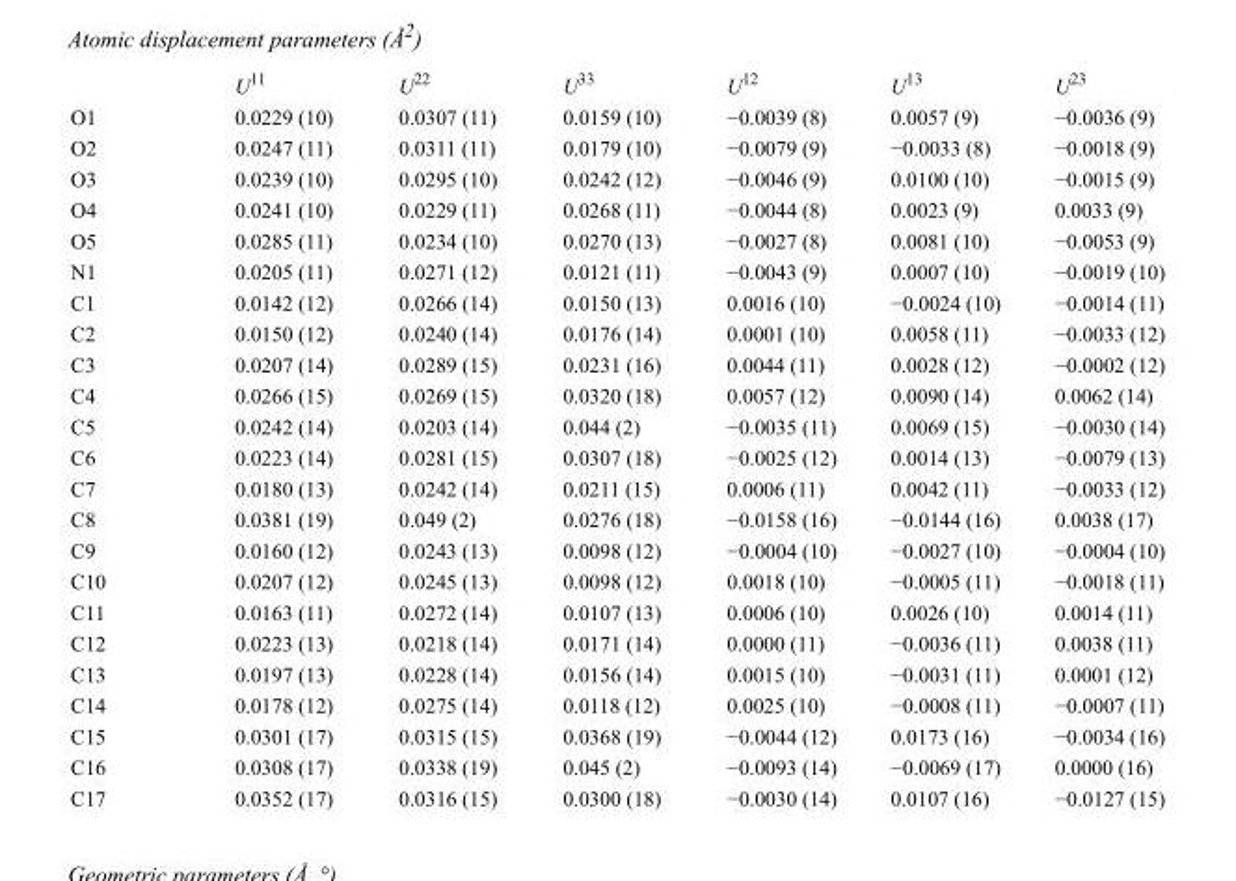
<table><thead><tr><td></td><td>U<sup>11</sup></td><td>U<sup>22</sup></td><td>U<sup>33</sup></td><td>U<sup>12</sup></td><td>U<sup>13</sup></td><td>U<sup>23</sup></td></tr></thead><tbody><tr><td>O1</td><td>0.0229 (10)</td><td>0.0307 (11)</td><td>0.0159 (10)</td><td>−0.0039 (8)</td><td>0.0057 (9)</td><td>−0.0036 (9)</td></tr><tr><td>O2</td><td>0.0247 (11)</td><td>0.0311 (11)</td><td>0.0179 (10)</td><td>−0.0079 (9)</td><td>−0.0033 (8)</td><td>−0.0018 (9)</td></tr><tr><td>O3</td><td>0.0239 (10)</td><td>0.0295 (10)</td><td>0.0242 (12)</td><td>−0.0046 (9)</td><td>0.0100 (10)</td><td>−0.0015 (9)</td></tr><tr><td>O4</td><td>0.0241 (10)</td><td>0.0229 (11)</td><td>0.0268 (11)</td><td>−0.0044 (8)</td><td>0.0023 (9)</td><td>0.0033 (9)</td></tr><tr><td>O5</td><td>0.0285 (11)</td><td>0.0234 (10)</td><td>0.0270 (13)</td><td>−0.0027 (8)</td><td>0.0081 (10)</td><td>−0.0053 (9)</td></tr><tr><td>N1</td><td>0.0205 (11)</td><td>0.0271 (12)</td><td>0.0121 (11)</td><td>−0.0043 (9)</td><td>0.0007 (10)</td><td>−0.0019 (10)</td></tr><tr><td>C1</td><td>0.0142 (12)</td><td>0.0266 (14)</td><td>0.0150 (13)</td><td>0.0016 (10)</td><td>−0.0024 (10)</td><td>−0.0014 (11)</td></tr><tr><td>C2</td><td>0.0150 (12)</td><td>0.0240 (14)</td><td>0.0176 (14)</td><td>0.0001 (10)</td><td>0.0058 (11)</td><td>−0.0033 (12)</td></tr><tr><td>C3</td><td>0.0207 (14)</td><td>0.0289 (15)</td><td>0.0231 (16)</td><td>0.0044 (11)</td><td>0.0028 (12)</td><td>−0.0002 (12)</td></tr><tr><td>C4</td><td>0.0266 (15)</td><td>0.0269 (15)</td><td>0.0320 (18)</td><td>0.0057 (12)</td><td>0.0090 (14)</td><td>0.0062 (14)</td></tr><tr><td>C5</td><td>0.0242 (14)</td><td>0.0203 (14)</td><td>0.044 (2)</td><td>−0.0035 (11)</td><td>0.0069 (15)</td><td>−0.0030 (14)</td></tr><tr><td>C6</td><td>0.0223 (14)</td><td>0.0281 (15)</td><td>0.0307 (18)</td><td>−0.0025 (12)</td><td>0.0014 (13)</td><td>−0.0079 (13)</td></tr><tr><td>C7</td><td>0.0180 (13)</td><td>0.0242 (14)</td><td>0.0211 (15)</td><td>0.0006 (11)</td><td>0.0042 (11)</td><td>−0.0033 (12)</td></tr><tr><td>C8</td><td>0.0381 (19)</td><td>0.049 (2)</td><td>0.0276 (18)</td><td>−0.0158 (16)</td><td>−0.0144 (16)</td><td>0.0038 (17)</td></tr><tr><td>C9</td><td>0.0160 (12)</td><td>0.0243 (13)</td><td>0.0098 (12)</td><td>−0.0004 (10)</td><td>−0.0027 (10)</td><td>−0.0004 (10)</td></tr><tr><td>C10</td><td>0.0207 (12)</td><td>0.0245 (13)</td><td>0.0098 (12)</td><td>0.0018 (10)</td><td>−0.0005 (11)</td><td>−0.0018 (11)</td></tr><tr><td>C11</td><td>0.0163 (11)</td><td>0.0272 (14)</td><td>0.0107 (13)</td><td>0.0006 (10)</td><td>0.0026 (10)</td><td>0.0014 (11)</td></tr><tr><td>C12</td><td>0.0223 (13)</td><td>0.0218 (14)</td><td>0.0171 (14)</td><td>0.0000 (11)</td><td>−0.0036 (11)</td><td>0.0038 (11)</td></tr><tr><td>C13</td><td>0.0197 (13)</td><td>0.0228 (14)</td><td>0.0156 (14)</td><td>0.0015 (10)</td><td>−0.0031 (11)</td><td>0.0001 (12)</td></tr><tr><td>C14</td><td>0.0178 (12)</td><td>0.0275 (14)</td><td>0.0118 (12)</td><td>0.0025 (10)</td><td>−0.0008 (11)</td><td>−0.0007 (11)</td></tr><tr><td>C15</td><td>0.0301 (17)</td><td>0.0315 (15)</td><td>0.0368 (19)</td><td>−0.0044 (12)</td><td>0.0173 (16)</td><td>−0.0034 (16)</td></tr><tr><td>C16</td><td>0.0308 (17)</td><td>0.0338 (19)</td><td>0.045 (2)</td><td>−0.0093 (14)</td><td>−0.0069 (17)</td><td>0.0000 (16)</td></tr><tr><td>C17</td><td>0.0352 (17)</td><td>0.0316 (15)</td><td>0.0300 (18)</td><td>−0.0030 (14)</td><td>0.0107 (16)</td><td>−0.0127 (15)</td></tr></tbody></table>